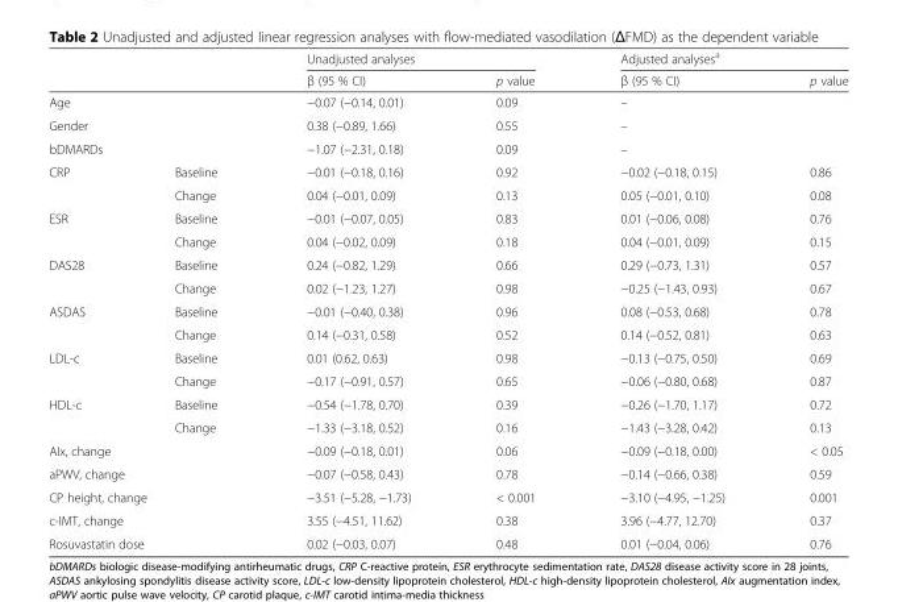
<table><thead><tr><td rowspan="2"></td><td rowspan="2"></td><td colspan="2">Unadjusted analyses</td><td colspan="2">Adjusted analyses<sup>a</sup></td></tr><tr><td>β (95 % CI)</td><td>p value</td><td>β (95 % CI)</td><td>p value</td></tr></thead><tbody><tr><td colspan="2">Age</td><td>−0.07 (−0.14, 0.01)</td><td>0.09</td><td>–</td><td></td></tr><tr><td colspan="2">Gender</td><td>0.38 (−0.89, 1.66)</td><td>0.55</td><td>–</td><td></td></tr><tr><td colspan="2">bDMARDs</td><td>−1.07 (−2.31, 0.18)</td><td>0.09</td><td>–</td><td></td></tr><tr><td rowspan="2">CRP</td><td>Baseline</td><td>−0.01 (−0.18, 0.16)</td><td>0.92</td><td>−0.02 (−0.18, 0.15)</td><td>0.86</td></tr><tr><td>Change</td><td>0.04 (−0.01, 0.09)</td><td>0.13</td><td>0.05 (−0.01, 0.10)</td><td>0.08</td></tr><tr><td rowspan="2">ESR</td><td>Baseline</td><td>−0.01 (−0.07, 0.05)</td><td>0.83</td><td>0.01 (−0.06, 0.08)</td><td>0.76</td></tr><tr><td>Change</td><td>0.04 (−0.02, 0.09)</td><td>0.18</td><td>0.04 (−0.01, 0.09)</td><td>0.15</td></tr><tr><td rowspan="2">DAS28</td><td>Baseline</td><td>0.24 (−0.82, 1.29)</td><td>0.66</td><td>0.29 (−0.73, 1.31)</td><td>0.57</td></tr><tr><td>Change</td><td>0.02 (−1.23, 1.27)</td><td>0.98</td><td>−0.25 (−1.43, 0.93)</td><td>0.67</td></tr><tr><td rowspan="2">ASDAS</td><td>Baseline</td><td>−0.01 (−0.40, 0.38)</td><td>0.96</td><td>0.08 (−0.53, 0.68)</td><td>0.78</td></tr><tr><td>Change</td><td>0.14 (−0.31, 0.58)</td><td>0.52</td><td>0.14 (−0.52, 0.81)</td><td>0.63</td></tr><tr><td rowspan="2">LDL-c</td><td>Baseline</td><td>0.01 (0.62, 0.63)</td><td>0.98</td><td>−0.13 (−0.75, 0.50)</td><td>0.69</td></tr><tr><td>Change</td><td>−0.17 (−0.91, 0.57)</td><td>0.65</td><td>−0.06 (−0.80, 0.68)</td><td>0.87</td></tr><tr><td rowspan="2">HDL-c</td><td>Baseline</td><td>−0.54 (−1.78, 0.70)</td><td>0.39</td><td>−0.26 (−1.70, 1.17)</td><td>0.72</td></tr><tr><td>Change</td><td>−1.33 (−3.18, 0.52)</td><td>0.16</td><td>−1.43 (−3.28, 0.42)</td><td>0.13</td></tr><tr><td colspan="2">AIx, change</td><td>−0.09 (−0.18, 0.01)</td><td>0.06</td><td>−0.09 (−0.18, 0.00)</td><td>&lt; 0.05</td></tr><tr><td colspan="2">aPWV, change</td><td>−0.07 (−0.58, 0.43)</td><td>0.78</td><td>−0.14 (−0.66, 0.38)</td><td>0.59</td></tr><tr><td colspan="2">CP height, change</td><td>−3.51 (−5.28, −1.73)</td><td>&lt; 0.001</td><td>−3.10 (−4.95, −1.25)</td><td>0.001</td></tr><tr><td colspan="2">c-IMT, change</td><td>3.55 (−4.51, 11.62)</td><td>0.38</td><td>3.96 (−4.77, 12.70)</td><td>0.37</td></tr><tr><td colspan="2">Rosuvastatin dose</td><td>0.02 (−0.03, 0.07)</td><td>0.48</td><td>0.01 (−0.04, 0.06)</td><td>0.76</td></tr></tbody></table>